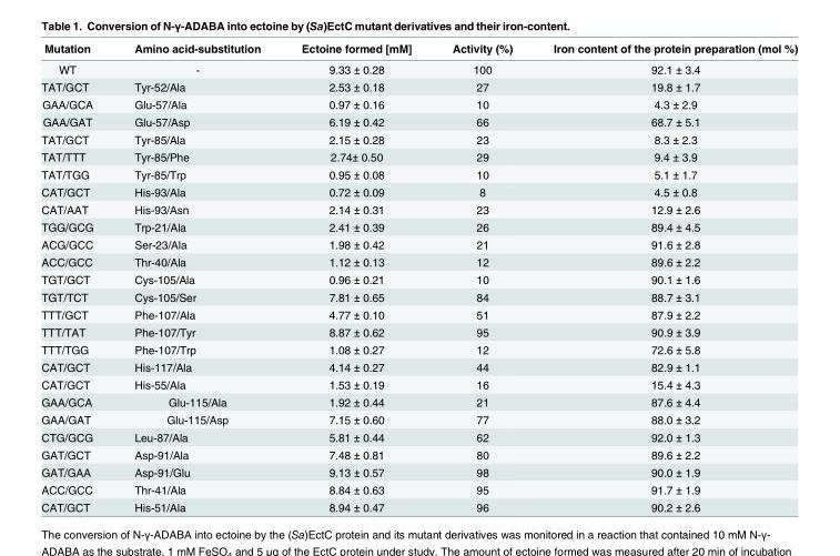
<table><thead><tr><td>Mutation</td><td>Amino acid-substitution</td><td>Ectoine formed [mM]</td><td>Activity (%)</td><td>Iron content of the protein preparation (mol %)</td></tr></thead><tbody><tr><td>WT</td><td>-</td><td>9.33 ± 0.28</td><td>100</td><td>92.1 ± 3.4</td></tr><tr><td>TAT/GCT</td><td>Tyr-52/Ala</td><td>2.53 ± 0.18</td><td>27</td><td>19.8 ± 1.7</td></tr><tr><td>GAA/GCA</td><td>Glu-57/Ala</td><td>0.97 ± 0.16</td><td>10</td><td>4.3 ± 2.9</td></tr><tr><td>GAA/GAT</td><td>Glu-57/Asp</td><td>6.19 ± 0.42</td><td>66</td><td>68.7 ± 5.1</td></tr><tr><td>TAT/GCT</td><td>Tyr-85/Ala</td><td>2.15 ± 0.28</td><td>23</td><td>8.3 ± 2.3</td></tr><tr><td>TAT/TTT</td><td>Tyr-85/Phe</td><td>2.74± 0.50</td><td>29</td><td>9.4 ± 3.9</td></tr><tr><td>TAT/TGG</td><td>Tyr-85/Trp</td><td>0.95 ± 0.08</td><td>10</td><td>5.1 ± 1.7</td></tr><tr><td>CAT/GCT</td><td>His-93/Ala</td><td>0.72 ± 0.09</td><td>8</td><td>4.5 ± 0.8</td></tr><tr><td>CAT/AAT</td><td>His-93/Asn</td><td>2.14 ± 0.31</td><td>23</td><td>12.9 ± 2.6</td></tr><tr><td>TGG/GCG</td><td>Trp-21/Ala</td><td>2.41 ± 0.39</td><td>26</td><td>89.4 ± 4.5</td></tr><tr><td>ACG/GCC</td><td>Ser-23/Ala</td><td>1.98 ± 0.42</td><td>21</td><td>91.6 ± 2.8</td></tr><tr><td>ACC/GCC</td><td>Thr-40/Ala</td><td>1.12 ± 0.13</td><td>12</td><td>89.6 ± 2.2</td></tr><tr><td>TGT/GCT</td><td>Cys-105/Ala</td><td>0.96 ± 0.21</td><td>10</td><td>90.1 ± 1.6</td></tr><tr><td>TGT/TCT</td><td>Cys-105/Ser</td><td>7.81 ± 0.65</td><td>84</td><td>88.7 ± 3.1</td></tr><tr><td>TTT/GCT</td><td>Phe-107/Ala</td><td>4.77 ± 0.10</td><td>51</td><td>87.9 ± 2.2</td></tr><tr><td>TTT/TAT</td><td>Phe-107/Tyr</td><td>8.87 ± 0.62</td><td>95</td><td>90.9 ± 3.9</td></tr><tr><td>TTT/TGG</td><td>Phe-107/Trp</td><td>1.08 ± 0.27</td><td>12</td><td>72.6 ± 5.8</td></tr><tr><td>CAT/GCT</td><td>His-117/Ala</td><td>4.14 ± 0.27</td><td>44</td><td>82.9 ± 1.1</td></tr><tr><td>CAT/GCT</td><td>His-55/Ala</td><td>1.53 ± 0.19</td><td>16</td><td>15.4 ± 4.3</td></tr><tr><td>GAA/GCA</td><td>Glu-115/Ala</td><td>1.92 ± 0.44</td><td>21</td><td>87.6 ± 4.4</td></tr><tr><td>GAA/GAT</td><td>Glu-115/Asp</td><td>7.15 ± 0.60</td><td>77</td><td>88.0 ± 3.2</td></tr><tr><td>CTG/GCG</td><td>Leu-87/Ala</td><td>5.81 ± 0.44</td><td>62</td><td>92.0 ± 1.3</td></tr><tr><td>GAT/GCT</td><td>Asp-91/Ala</td><td>7.48 ± 0.81</td><td>80</td><td>89.6 ± 2.2</td></tr><tr><td>GAT/GAA</td><td>Asp-91/Glu</td><td>9.13 ± 0.57</td><td>98</td><td>90.0 ± 1.9</td></tr><tr><td>ACC/GCC</td><td>Thr-41/Ala</td><td>8.84 ± 0.63</td><td>95</td><td>91.7 ± 1.9</td></tr><tr><td>CAT/GCT</td><td>His-51/Ala</td><td>8.94 ± 0.47</td><td>96</td><td>90.2 ± 2.6</td></tr></tbody></table>